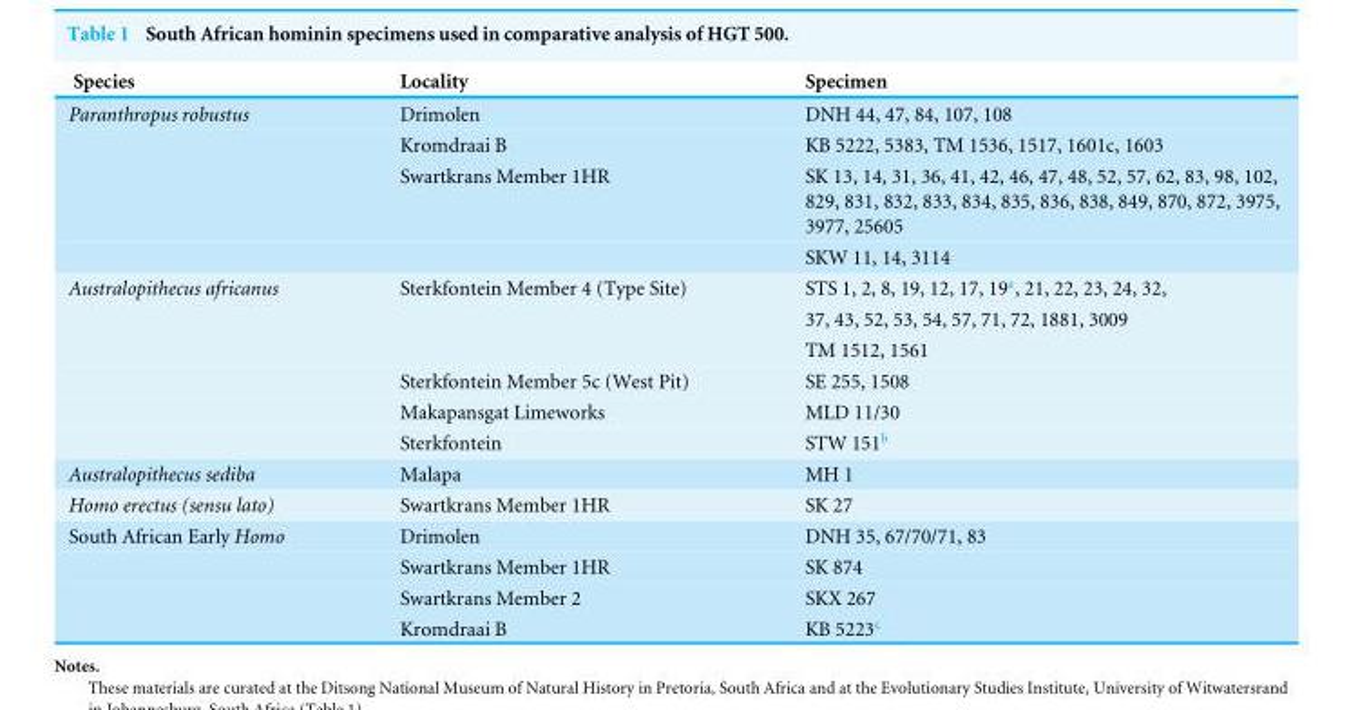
<table><thead><tr><td>Species</td><td>Locality</td><td>Specimen</td></tr></thead><tbody><tr><td rowspan="4">Paranthropus robustus</td><td>Drimolen</td><td>DNH 44, 47, 84, 107, 108</td></tr><tr><td>Kromdraai B</td><td>KB 5222, 5383, TM 1536, 1517, 1601c, 1603</td></tr><tr><td>Swartkrans Member 1HR</td><td>SK 13, 14, 31, 36, 41, 42, 46, 47, 48, 52, 57, 62, 83, 98, 102, 829, 831, 832, 833, 834, 835, 836, 838, 849, 870, 872, 3975, 3977, 25605</td></tr><tr><td></td><td>SKW 11, 14, 3114</td></tr><tr><td rowspan="6">Australopithecus africanus</td><td>Sterkfontein Member 4 (Type Site)</td><td>STS 1, 2, 8, 19, 12, 17, 19<sup>a</sup>, 21, 22, 23, 24, 32,</td></tr><tr><td></td><td>37, 43, 52, 53, 54, 57, 71, 72, 1881, 3009</td></tr><tr><td></td><td>TM 1512, 1561</td></tr><tr><td>Sterkfontein Member 5c (West Pit)</td><td>SE 255, 1508</td></tr><tr><td>Makapansgat Limeworks</td><td>MLD 11/30</td></tr><tr><td>Sterkfontein</td><td>STW 151<sup>b</sup></td></tr><tr><td>Australopithecus sediba</td><td>Malapa</td><td>MH 1</td></tr><tr><td>Homo erectus (sensu lato)</td><td>Swartkrans Member 1HR</td><td>SK 27</td></tr><tr><td rowspan="4">South African Early Homo</td><td>Drimolen</td><td>DNH 35, 67/70/71, 83</td></tr><tr><td>Swartkrans Member 1HR</td><td>SK 874</td></tr><tr><td>Swartkrans Member 2</td><td>SKX 267</td></tr><tr><td>Kromdraai B</td><td>KB 5223<sup>c</sup></td></tr></tbody></table>